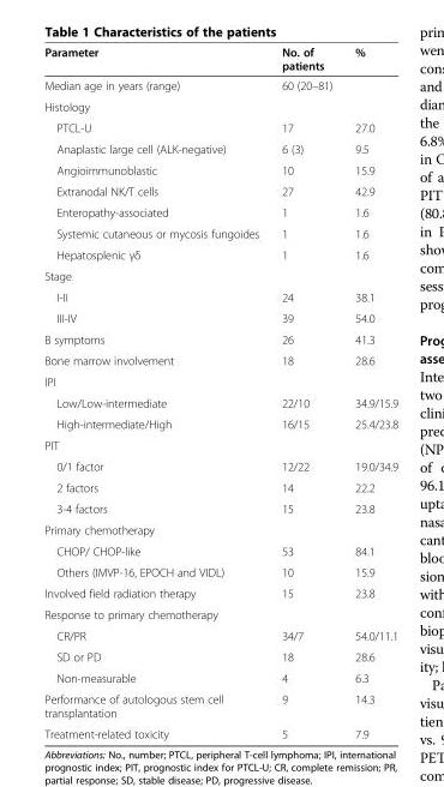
<table><thead><tr><td>Parameter</td><td>No. of patients</td><td>%</td></tr></thead><tbody><tr><td>Median age in years (range)</td><td>60 (20–81)</td><td></td></tr><tr><td colspan="3">Histology</td></tr><tr><td>PTCL-U</td><td>17</td><td>27.0</td></tr><tr><td>Anaplastic large cell (ALK-negative)</td><td>6 (3)</td><td>9.5</td></tr><tr><td>Angioimmunoblastic</td><td>10</td><td>15.9</td></tr><tr><td>Extranodal NK/T cells</td><td>27</td><td>42.9</td></tr><tr><td>Enteropathy-associated</td><td>1</td><td>1.6</td></tr><tr><td>Systemic cutaneous or mycosis fungoides</td><td>1</td><td>1.6</td></tr><tr><td>Hepatosplenic γδ</td><td>1</td><td>1.6</td></tr><tr><td colspan="3">Stage</td></tr><tr><td>I-II</td><td>24</td><td>38.1</td></tr><tr><td>III-IV</td><td>39</td><td>54.0</td></tr><tr><td>B symptoms</td><td>26</td><td>41.3</td></tr><tr><td>Bone marrow involvement</td><td>18</td><td>28.6</td></tr><tr><td colspan="3">IPI</td></tr><tr><td>Low/Low-intermediate</td><td>22/10</td><td>34.9/15.9</td></tr><tr><td>High-intermediate/High</td><td>16/15</td><td>25.4/23.8</td></tr><tr><td colspan="3">PIT</td></tr><tr><td>0/1 factor</td><td>12/22</td><td>19.0/34.9</td></tr><tr><td>2 factors</td><td>14</td><td>22.2</td></tr><tr><td>3-4 factors</td><td>15</td><td>23.8</td></tr><tr><td colspan="3">Primary chemotherapy</td></tr><tr><td>CHOP/ CHOP-like</td><td>53</td><td>84.1</td></tr><tr><td>Others (IMVP-16, EPOCH and VIDL)</td><td>10</td><td>15.9</td></tr><tr><td>Involved field radiation therapy</td><td>15</td><td>23.8</td></tr><tr><td colspan="3">Response to primary chemotherapy</td></tr><tr><td>CR/PR</td><td>34/7</td><td>54.0/11.1</td></tr><tr><td>SD or PD</td><td>18</td><td>28.6</td></tr><tr><td>Non-measurable</td><td>4</td><td>6.3</td></tr><tr><td>Performance of autologous stem cell transplantation</td><td>9</td><td>14.3</td></tr><tr><td>Treatment-related toxicity</td><td>5</td><td>7.9</td></tr></tbody></table>